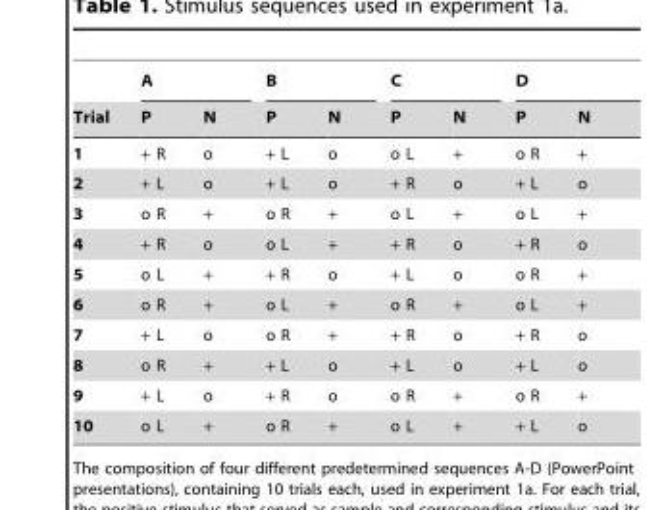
<table><thead><tr><td rowspan="2">Trial</td><td colspan="2">A</td><td colspan="2">B</td><td colspan="2">C</td><td colspan="2">D</td></tr><tr><td>P</td><td>N</td><td>P</td><td>N</td><td>P</td><td>N</td><td>P</td><td>N</td></tr></thead><tbody><tr><td>1</td><td>+ R</td><td>o</td><td>+ L</td><td>o</td><td>o L</td><td>+</td><td>o R</td><td>+</td></tr><tr><td>2</td><td>+ L</td><td>o</td><td>+ L</td><td>o</td><td>+ R</td><td>o</td><td>+ L</td><td>o</td></tr><tr><td>3</td><td>o R</td><td>+</td><td>o R</td><td>+</td><td>o L</td><td>+</td><td>o L</td><td>+</td></tr><tr><td>4</td><td>+ R</td><td>o</td><td>o L</td><td>+</td><td>+ R</td><td>o</td><td>+ R</td><td>o</td></tr><tr><td>5</td><td>o L</td><td>+</td><td>+ R</td><td>o</td><td>+ L</td><td>o</td><td>o R</td><td>+</td></tr><tr><td>6</td><td>o R</td><td>+</td><td>o L</td><td>+</td><td>o R</td><td>+</td><td>o L</td><td>+</td></tr><tr><td>7</td><td>+ L</td><td>o</td><td>o R</td><td>+</td><td>+ R</td><td>o</td><td>+ R</td><td>o</td></tr><tr><td>8</td><td>o R</td><td>+</td><td>+ L</td><td>o</td><td>+ L</td><td>o</td><td>+ L</td><td>o</td></tr><tr><td>9</td><td>+ L</td><td>o</td><td>+ R</td><td>o</td><td>o R</td><td>+</td><td>o R</td><td>+</td></tr><tr><td>10</td><td>o L</td><td>+</td><td>o R</td><td>+</td><td>o L</td><td>+</td><td>+ L</td><td>o</td></tr></tbody></table>